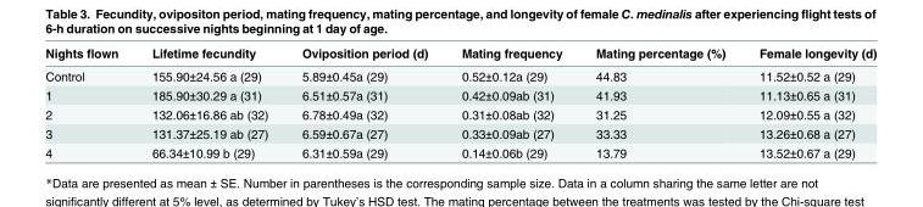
<table><thead><tr><td>Nights flown</td><td>Lifetime fecundity</td><td>Oviposition period (d)</td><td>Mating frequency</td><td>Mating percentage (%)</td><td>Female longevity (d)</td></tr></thead><tbody><tr><td>Control</td><td>155.90±24.56 a (29)</td><td>5.89±0.45a (29)</td><td>0.52±0.12a (29)</td><td>44.83</td><td>11.52±0.52 a (29)</td></tr><tr><td>1</td><td>185.90±30.29 a (31)</td><td>6.51±0.57a (31)</td><td>0.42±0.09ab (31)</td><td>41.93</td><td>11.13±0.65 a (31)</td></tr><tr><td>2</td><td>132.06±16.86 ab (32)</td><td>6.78±0.49a (32)</td><td>0.31±0.08ab (32)</td><td>31.25</td><td>12.09±0.55 a (32)</td></tr><tr><td>3</td><td>131.37±25.19 ab (27)</td><td>6.59±0.67a (27)</td><td>0.33±0.09ab (27)</td><td>33.33</td><td>13.26±0.68 a (27)</td></tr><tr><td>4</td><td>66.34±10.99 b (29)</td><td>6.31±0.59a (29)</td><td>0.14±0.06b (29)</td><td>13.79</td><td>13.52±0.67 a (29)</td></tr></tbody></table>